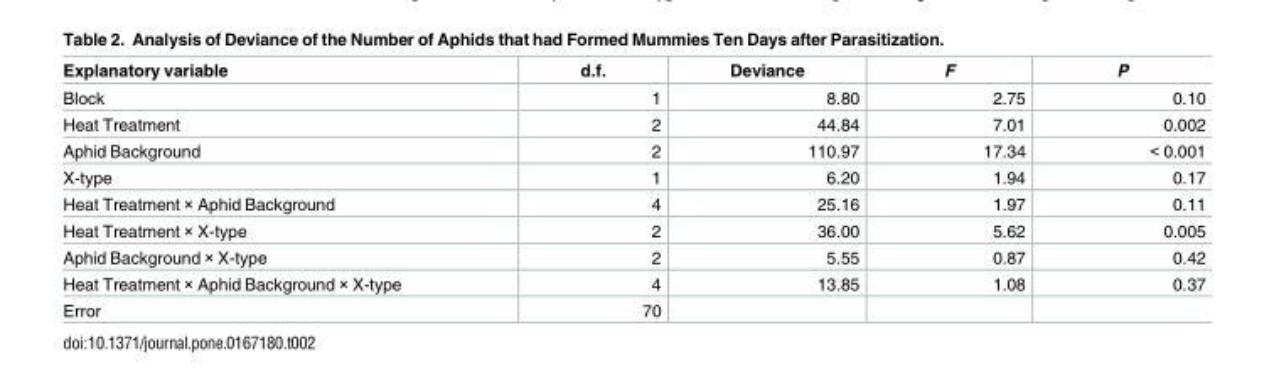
<table><thead><tr><td>Explanatory variable</td><td>d.f.</td><td>Deviance</td><td>F</td><td>P</td></tr></thead><tbody><tr><td>Block</td><td>1</td><td>8.80</td><td>2.75</td><td>0.10</td></tr><tr><td>Heat Treatment</td><td>2</td><td>44.84</td><td>7.01</td><td>0.002</td></tr><tr><td>Aphid Background</td><td>2</td><td>110.97</td><td>17.34</td><td>&lt; 0.001</td></tr><tr><td>X-type</td><td>1</td><td>6.20</td><td>1.94</td><td>0.17</td></tr><tr><td>Heat Treatment × Aphid Background</td><td>4</td><td>25.16</td><td>1.97</td><td>0.11</td></tr><tr><td>Heat Treatment × X-type</td><td>2</td><td>36.00</td><td>5.62</td><td>0.005</td></tr><tr><td>Aphid Background × X-type</td><td>2</td><td>5.55</td><td>0.87</td><td>0.42</td></tr><tr><td>Heat Treatment × Aphid Background × X-type</td><td>4</td><td>13.85</td><td>1.08</td><td>0.37</td></tr><tr><td>Error</td><td>70</td><td></td><td></td><td></td></tr></tbody></table>